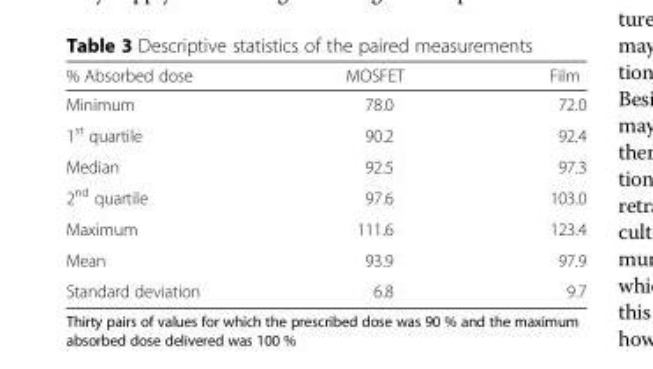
<table><thead><tr><td>% Absorbed dose</td><td>MOSFET</td><td>Film</td></tr></thead><tbody><tr><td>Minimum</td><td>78.0</td><td>72.0</td></tr><tr><td>1<sup>st</sup> quartile</td><td>90.2</td><td>92.4</td></tr><tr><td>Median</td><td>92.5</td><td>97.3</td></tr><tr><td>2<sup>nd</sup> quartile</td><td>97.6</td><td>103.0</td></tr><tr><td>Maximum</td><td>111.6</td><td>123.4</td></tr><tr><td>Mean</td><td>93.9</td><td>97.9</td></tr><tr><td>Standard deviation</td><td>6.8</td><td>9.7</td></tr></tbody></table>